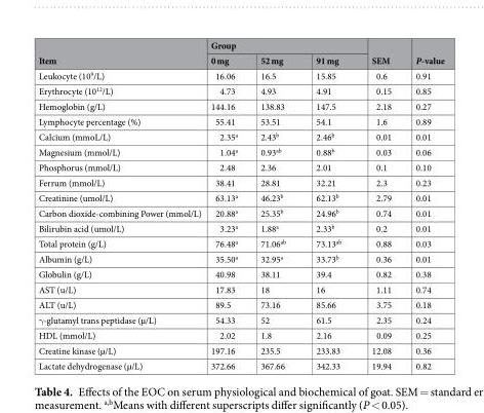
<table><thead><tr><td rowspan="2">Item</td><td colspan="3">Group</td><td rowspan="2">SEM</td><td rowspan="2">P-value</td></tr><tr><td>0 mg</td><td>52 mg</td><td>91 mg</td></tr></thead><tbody><tr><td>Leukocyte (10<sup>9</sup>/L)</td><td>16.06</td><td>16.5</td><td>15.85</td><td>0.6</td><td>0.91</td></tr><tr><td>Erythrocyte (10<sup>12</sup>/L)</td><td>4.73</td><td>4.93</td><td>4.91</td><td>0.15</td><td>0.85</td></tr><tr><td>Hemoglobin (g/L)</td><td>144.16</td><td>138.83</td><td>147.5</td><td>2.18</td><td>0.27</td></tr><tr><td>Lymphocyte percentage (%)</td><td>55.41</td><td>53.51</td><td>54.1</td><td>1.6</td><td>0.89</td></tr><tr><td>Calcium (mmoL/L)</td><td>2.35<sup>a</sup></td><td>2.43<sup>b</sup></td><td>2.46<sup>b</sup></td><td>0.01</td><td>0.01</td></tr><tr><td>Magnesium (mmol/L)</td><td>1.04<sup>a</sup></td><td>0.93<sup>ab</sup></td><td>0.88<sup>b</sup></td><td>0.03</td><td>0.06</td></tr><tr><td>Phosphorus (mmol/L)</td><td>2.48</td><td>2.36</td><td>2.01</td><td>0.1</td><td>0.10</td></tr><tr><td>Ferrum (mmol/L)</td><td>38.41</td><td>28.81</td><td>32.21</td><td>2.3</td><td>0.23</td></tr><tr><td>Creatinine (umol/L)</td><td>63.13<sup>a</sup></td><td>46.23<sup>b</sup></td><td>62.13<sup>b</sup></td><td>2.79</td><td>0.01</td></tr><tr><td>Carbon dioxide-combining Power (mmol/L)</td><td>20.88<sup>a</sup></td><td>25.35<sup>b</sup></td><td>24.96<sup>b</sup></td><td>0.74</td><td>0.01</td></tr><tr><td>Bilirubin acid (umol/L)</td><td>3.23<sup>a</sup></td><td>1.88<sup>a</sup></td><td>2.33<sup>b</sup></td><td>0.2</td><td>0.01</td></tr><tr><td>Total protein (g/L)</td><td>76.48<sup>a</sup></td><td>71.06<sup>ab</sup></td><td>73.13<sup>ab</sup></td><td>0.88</td><td>0.03</td></tr><tr><td>Albumin (g/L)</td><td>35.50<sup>a</sup></td><td>32.95<sup>a</sup></td><td>33.73<sup>b</sup></td><td>0.36</td><td>0.01</td></tr><tr><td>Globulin (g/L)</td><td>40.98</td><td>38.11</td><td>39.4</td><td>0.82</td><td>0.38</td></tr><tr><td>AST (u/L)</td><td>17.83</td><td>18</td><td>16</td><td>1.11</td><td>0.74</td></tr><tr><td>ALT (u/L)</td><td>89.5</td><td>73.16</td><td>85.66</td><td>3.75</td><td>0.18</td></tr><tr><td>γ-glutamyl trans peptidase (µ/L)</td><td>54.33</td><td>52</td><td>61.5</td><td>2.35</td><td>0.24</td></tr><tr><td>HDL (mmol/L)</td><td>2.02</td><td>1.8</td><td>2.16</td><td>0.09</td><td>0.25</td></tr><tr><td>Creatine kinase (µ/L)</td><td>197.16</td><td>235.5</td><td>233.83</td><td>12.08</td><td>0.36</td></tr><tr><td>Lactate dehydrogenase (µ/L)</td><td>372.66</td><td>367.66</td><td>342.33</td><td>19.94</td><td>0.82</td></tr></tbody></table>